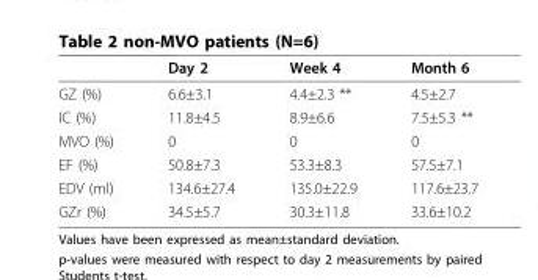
<table><thead><tr><td></td><td>Day 2</td><td>Week 4</td><td>Month 6</td></tr></thead><tbody><tr><td>GZ (%)</td><td>6.6±3.1</td><td>4.4±2.3 **</td><td>4.5±2.7</td></tr><tr><td>IC (%)</td><td>11.8±4.5</td><td>8.9±6.6</td><td>7.5±5.3 **</td></tr><tr><td>MVO (%)</td><td>0</td><td>0</td><td>0</td></tr><tr><td>EF (%)</td><td>50.8±7.3</td><td>53.3±8.3</td><td>57.5±7.1</td></tr><tr><td>EDV (ml)</td><td>134.6±27.4</td><td>135.0±22.9</td><td>117.6±23.7</td></tr><tr><td>GZr (%)</td><td>34.5±5.7</td><td>30.3±11.8</td><td>33.6±10.2</td></tr></tbody></table>